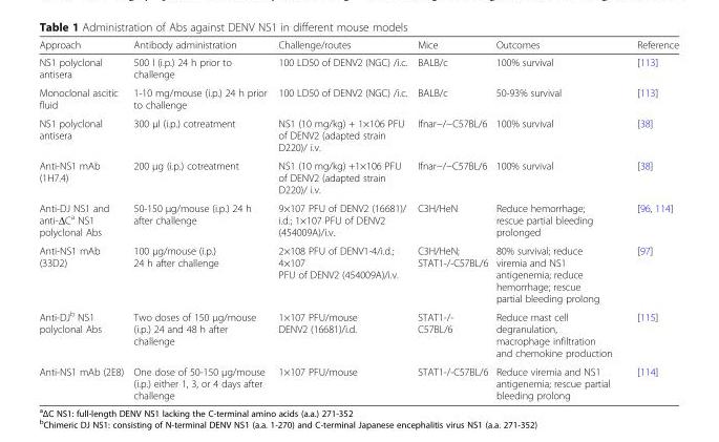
<table><thead><tr><td>Approach</td><td>Antibody administration</td><td>Challenge/routes</td><td>Mice</td><td>Outcomes</td><td>Reference</td></tr></thead><tbody><tr><td>NS1 polyclonal antisera</td><td>500 l (i.p.) 24 h prior to challenge</td><td>100 LD50 of DENV2 (NGC) /i.c.</td><td>BALB/c</td><td>100% survival</td><td>[113]</td></tr><tr><td>Monoclonal ascitic fluid</td><td>1-10 mg/mouse (i.p.) 24 h prior to challenge</td><td>100 LD50 of DENV2 (NGC) /i.c.</td><td>BALB/c</td><td>50-93% survival</td><td>[113]</td></tr><tr><td>NS1 polyclonal antisera</td><td>300 μl (i.p.) cotreatment</td><td>NS1 (10 mg/kg) + 1×106 PFU of DENV2 (adapted strain D220)/ i.v.</td><td>Ifnar−/−C57BL/6</td><td>100% survival</td><td>[38]</td></tr><tr><td>Anti-NS1 mAb (1H7.4)</td><td>200 μg (i.p.) cotreatment</td><td>NS1 (10 mg/kg) +1×106 PFU of DENV2 (adapted strain D220)/ i.v.</td><td>Ifnar−/−C57BL/6</td><td>100% survival</td><td>[38]</td></tr><tr><td>Anti-DJ NS1 and anti-ΔC<sup>a</sup> NS1 polyclonal Abs</td><td>50-150 μg/mouse (i.p.) 24 h after challenge</td><td>9×107 PFU of DENV2 (16681)/ i.d.; 1×107 PFU of DENV2 (454009A)/i.v.</td><td>C3H/HeN</td><td>Reduce hemorrhage; rescue partial bleeding prolonged</td><td>[96, 114]</td></tr><tr><td>Anti-NS1 mAb (33D2)</td><td>100 μg/mouse (i.p.) 24 h after challenge</td><td>2×108 PFU of DENV1-4/i.d.; 4×107 PFU of DENV2 (454009A)/i.v.</td><td>C3H/HeN; STAT1-/-C57BL/6</td><td>80% survival; reduce viremia and NS1 antigenemia; reduce hemorrhage; rescue partial bleeding prolong</td><td>[97]</td></tr><tr><td>Anti-DJ<sup>b</sup> NS1 polyclonal Abs</td><td>Two doses of 150 μg/mouse (i.p.) 24 and 48 h after challenge</td><td>1×107 PFU/mouse DENV2 (16681)/i.d.</td><td>STAT1-/- C57BL/6</td><td>Reduce mast cell degranulation, macrophage infiltration and chemokine production</td><td>[115]</td></tr><tr><td>Anti-NS1 mAb (2E8)</td><td>One dose of 50-150 μg/mouse (i.p.) either 1, 3, or 4 days after challenge</td><td>1×107 PFU/mouse</td><td>STAT1-/-C57BL/6</td><td>Reduce viremia and NS1 antigenemia; rescue partial bleeding prolong</td><td>[114]</td></tr></tbody></table>